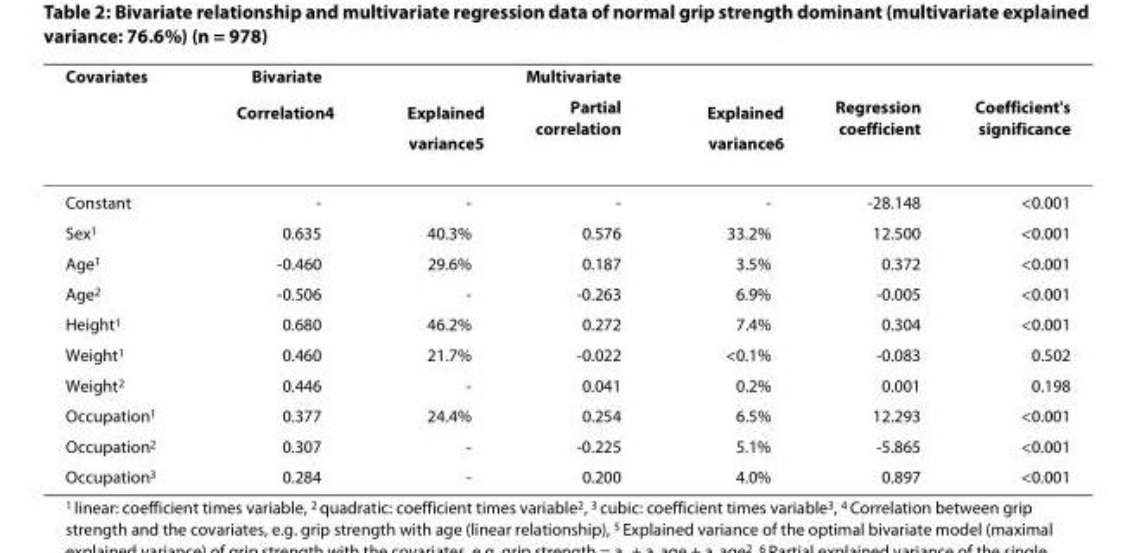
<table><thead><tr><td rowspan="2">Covariates</td><td rowspan="2">Bivariate Correlation<sup>4</sup></td><td rowspan="2">Explained variance<sup>5</sup></td><td rowspan="2">Multivariate Partial correlation</td><td rowspan="2">Explained variance<sup>6</sup></td><td rowspan="2">Regression coefficient</td><td rowspan="2">Coefficient&#x27;s significance</td></tr><tr></tr></thead><tbody><tr><td>Constant</td><td>-</td><td>-</td><td>-</td><td>-</td><td>-28.148</td><td>&lt;0.001</td></tr><tr><td>Sex<sup>1</sup></td><td>0.635</td><td>40.3%</td><td>0.576</td><td>33.2%</td><td>12.500</td><td>&lt;0.001</td></tr><tr><td>Age<sup>1</sup></td><td>-0.460</td><td>29.6%</td><td>0.187</td><td>3.5%</td><td>0.372</td><td>&lt;0.001</td></tr><tr><td>Age<sup>2</sup></td><td>-0.506</td><td>-</td><td>-0.263</td><td>6.9%</td><td>-0.005</td><td>&lt;0.001</td></tr><tr><td>Height<sup>1</sup></td><td>0.680</td><td>46.2%</td><td>0.272</td><td>7.4%</td><td>0.304</td><td>&lt;0.001</td></tr><tr><td>Weight<sup>1</sup></td><td>0.460</td><td>21.7%</td><td>-0.022</td><td>&lt;0.1%</td><td>-0.083</td><td>0.502</td></tr><tr><td>Weight<sup>2</sup></td><td>0.446</td><td>-</td><td>0.041</td><td>0.2%</td><td>0.001</td><td>0.198</td></tr><tr><td>Occupation<sup>1</sup></td><td>0.377</td><td>24.4%</td><td>0.254</td><td>6.5%</td><td>12.293</td><td>&lt;0.001</td></tr><tr><td>Occupation<sup>2</sup></td><td>0.307</td><td>-</td><td>-0.225</td><td>5.1%</td><td>-5.865</td><td>&lt;0.001</td></tr><tr><td>Occupation<sup>3</sup></td><td>0.284</td><td>-</td><td>0.200</td><td>4.0%</td><td>0.897</td><td>&lt;0.001</td></tr></tbody></table>